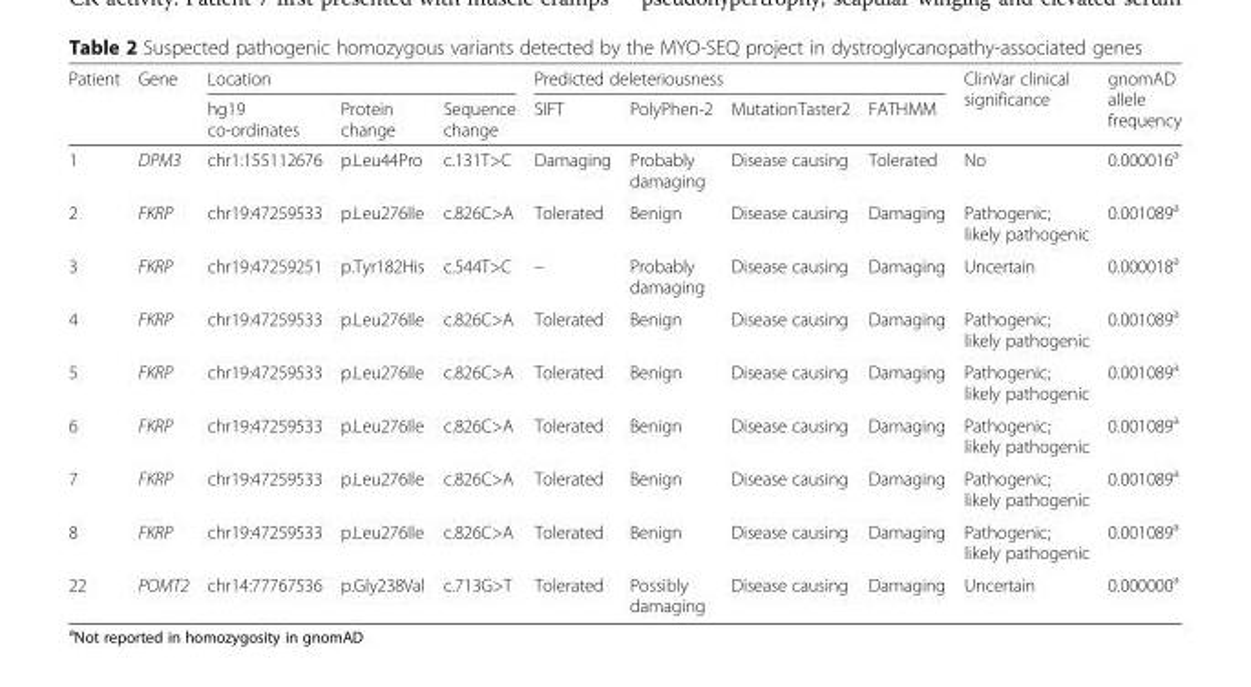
<table><thead><tr><td rowspan="2">Patient</td><td rowspan="2">Gene</td><td colspan="3">Location</td><td colspan="4">Predicted deleteriousness</td><td rowspan="2">ClinVar clinical significance</td><td rowspan="2">gnomAD allele frequency</td></tr><tr><td>hg19 co-ordinates</td><td>Protein change</td><td>Sequence change</td><td>SIFT</td><td>PolyPhen-2</td><td>MutationTaster2</td><td>FATHMM</td></tr></thead><tbody><tr><td>1</td><td>DPM3</td><td>chr1:155112676</td><td>p.Leu44Pro</td><td>c.131T&gt;C</td><td>Damaging</td><td>Probably damaging</td><td>Disease causing</td><td>Tolerated</td><td>No</td><td>0.000016<sup>a</sup></td></tr><tr><td>2</td><td>FKRP</td><td>chr19:47259533</td><td>p.Leu276Ile</td><td>c.826C&gt;A</td><td>Tolerated</td><td>Benign</td><td>Disease causing</td><td>Damaging</td><td>Pathogenic; likely pathogenic</td><td>0.001089<sup>a</sup></td></tr><tr><td>3</td><td>FKRP</td><td>chr19:47259251</td><td>p.Tyr182His</td><td>c.544T&gt;C</td><td>–</td><td>Probably damaging</td><td>Disease causing</td><td>Damaging</td><td>Uncertain</td><td>0.000018<sup>a</sup></td></tr><tr><td>4</td><td>FKRP</td><td>chr19:47259533</td><td>p.Leu276Ile</td><td>c.826C&gt;A</td><td>Tolerated</td><td>Benign</td><td>Disease causing</td><td>Damaging</td><td>Pathogenic; likely pathogenic</td><td>0.001089<sup>a</sup></td></tr><tr><td>5</td><td>FKRP</td><td>chr19:47259533</td><td>p.Leu276Ile</td><td>c.826C&gt;A</td><td>Tolerated</td><td>Benign</td><td>Disease causing</td><td>Damaging</td><td>Pathogenic; likely pathogenic</td><td>0.001089<sup>a</sup></td></tr><tr><td>6</td><td>FKRP</td><td>chr19:47259533</td><td>p.Leu276Ile</td><td>c.826C&gt;A</td><td>Tolerated</td><td>Benign</td><td>Disease causing</td><td>Damaging</td><td>Pathogenic; likely pathogenic</td><td>0.001089<sup>a</sup></td></tr><tr><td>7</td><td>FKRP</td><td>chr19:47259533</td><td>p.Leu276Ile</td><td>c.826C&gt;A</td><td>Tolerated</td><td>Benign</td><td>Disease causing</td><td>Damaging</td><td>Pathogenic; likely pathogenic</td><td>0.001089<sup>a</sup></td></tr><tr><td>8</td><td>FKRP</td><td>chr19:47259533</td><td>p.Leu276Ile</td><td>c.826C&gt;A</td><td>Tolerated</td><td>Benign</td><td>Disease causing</td><td>Damaging</td><td>Pathogenic; likely pathogenic</td><td>0.001089<sup>a</sup></td></tr><tr><td>22</td><td>POMT2</td><td>chr14:77767536</td><td>p.Gly238Val</td><td>c.713G&gt;T</td><td>Tolerated</td><td>Possibly damaging</td><td>Disease causing</td><td>Damaging</td><td>Uncertain</td><td>0.000000<sup>a</sup></td></tr></tbody></table>